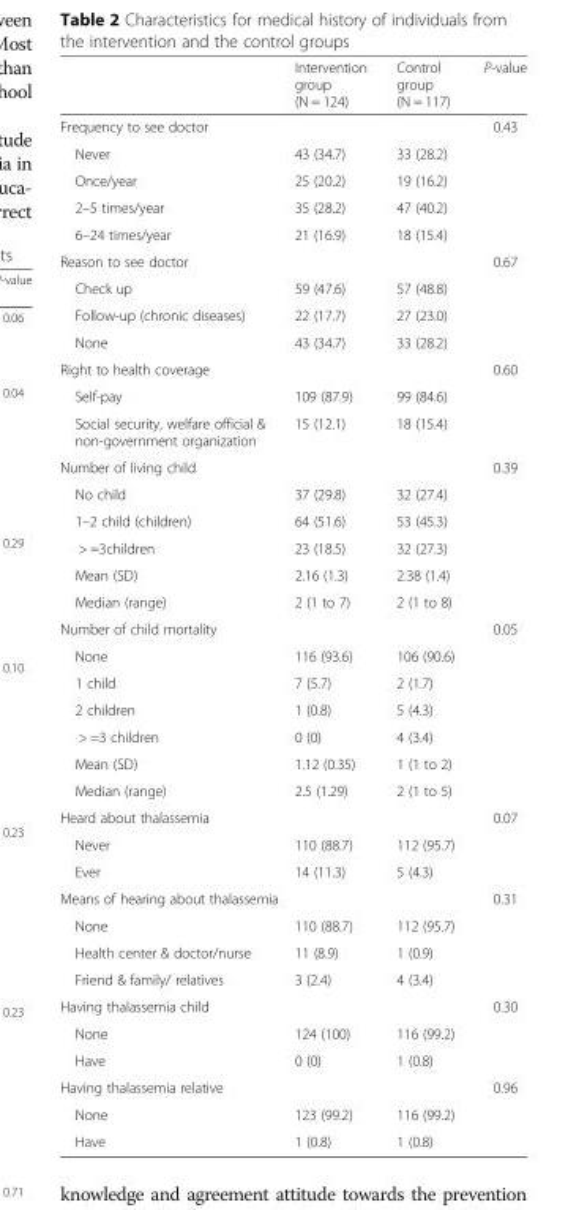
<table><thead><tr><td></td><td>Intervention group (N = 124)</td><td>Control group (N = 117)</td><td>P-value</td></tr></thead><tbody><tr><td colspan="3">Frequency to see doctor</td><td rowspan="5">0.43</td></tr><tr><td>Never</td><td>43 (34.7)</td><td>33 (28.2)</td></tr><tr><td>Once/year</td><td>25 (20.2)</td><td>19 (16.2)</td></tr><tr><td>2–5 times/year</td><td>35 (28.2)</td><td>47 (40.2)</td></tr><tr><td>6–24 times/year</td><td>21 (16.9)</td><td>18 (15.4)</td></tr><tr><td colspan="3">Reason to see doctor</td><td rowspan="4">0.67</td></tr><tr><td>Check up</td><td>59 (47.6)</td><td>57 (48.8)</td></tr><tr><td>Follow-up (chronic diseases)</td><td>22 (17.7)</td><td>27 (23.0)</td></tr><tr><td>None</td><td>43 (34.7)</td><td>33 (28.2)</td></tr><tr><td colspan="3">Right to health coverage</td><td rowspan="3">0.60</td></tr><tr><td>Self-pay</td><td>109 (87.9)</td><td>99 (84.6)</td></tr><tr><td>Social security, welfare official &amp; non-government organization</td><td>15 (12.1)</td><td>18 (15.4)</td></tr><tr><td colspan="3">Number of living child</td><td rowspan="6">0.39</td></tr><tr><td>No child</td><td>37 (29.8)</td><td>32 (27.4)</td></tr><tr><td>1–2 child (children)</td><td>64 (51.6)</td><td>53 (45.3)</td></tr><tr><td>&gt; =3children</td><td>23 (18.5)</td><td>32 (27.3)</td></tr><tr><td>Mean (SD)</td><td>2.16 (1.3)</td><td>2.38 (1.4)</td></tr><tr><td>Median (range)</td><td>2 (1 to 7)</td><td>2 (1 to 8)</td></tr><tr><td colspan="3">Number of child mortality</td><td rowspan="7">0.05</td></tr><tr><td>None</td><td>116 (93.6)</td><td>106 (90.6)</td></tr><tr><td>1 child</td><td>7 (5.7)</td><td>2 (1.7)</td></tr><tr><td>2 children</td><td>1 (0.8)</td><td>5 (4.3)</td></tr><tr><td>&gt; =3 children</td><td>0 (0)</td><td>4 (3.4)</td></tr><tr><td>Mean (SD)</td><td>1.12 (0.35)</td><td>1 (1 to 2)</td></tr><tr><td>Median (range)</td><td>2.5 (1.29)</td><td>2 (1 to 5)</td></tr><tr><td colspan="3">Heard about thalassemia</td><td rowspan="3">0.07</td></tr><tr><td>Never</td><td>110 (88.7)</td><td>112 (95.7)</td></tr><tr><td>Ever</td><td>14 (11.3)</td><td>5 (4.3)</td></tr><tr><td colspan="3">Means of hearing about thalassemia</td><td rowspan="4">0.31</td></tr><tr><td>None</td><td>110 (88.7)</td><td>112 (95.7)</td></tr><tr><td>Health center &amp; doctor/nurse</td><td>11 (8.9)</td><td>1 (0.9)</td></tr><tr><td>Friend &amp; family/ relatives</td><td>3 (2.4)</td><td>4 (3.4)</td></tr><tr><td colspan="3">Having thalassemia child</td><td rowspan="3">0.30</td></tr><tr><td>None</td><td>124 (100)</td><td>116 (99.2)</td></tr><tr><td>Have</td><td>0 (0)</td><td>1 (0.8)</td></tr><tr><td colspan="3">Having thalassemia relative</td><td rowspan="3">0.96</td></tr><tr><td>None</td><td>123 (99.2)</td><td>116 (99.2)</td></tr><tr><td>Have</td><td>1 (0.8)</td><td>1 (0.8)</td></tr></tbody></table>